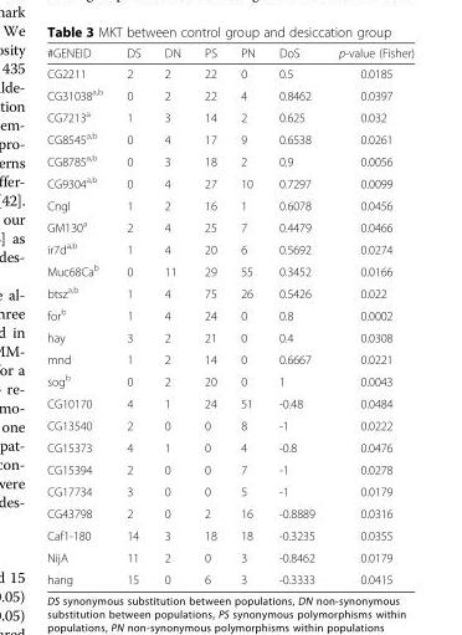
<table><thead><tr><td>#GENEID</td><td>DS</td><td>DN</td><td>PS</td><td>PN</td><td>DoS</td><td>p-value (Fisher)</td></tr></thead><tbody><tr><td>CG2211</td><td>2</td><td>2</td><td>22</td><td>0</td><td>0.5</td><td>0.0185</td></tr><tr><td>CG31038<sup>a,b</sup></td><td>0</td><td>2</td><td>22</td><td>4</td><td>0.8462</td><td>0.0397</td></tr><tr><td>CG7213<sup>a</sup></td><td>1</td><td>3</td><td>14</td><td>2</td><td>0.625</td><td>0.032</td></tr><tr><td>CG8545<sup>a,b</sup></td><td>0</td><td>4</td><td>17</td><td>9</td><td>0.6538</td><td>0.0261</td></tr><tr><td>CG8785<sup>a,b</sup></td><td>0</td><td>3</td><td>18</td><td>2</td><td>0.9</td><td>0.0056</td></tr><tr><td>CG9304<sup>a,b</sup></td><td>0</td><td>4</td><td>27</td><td>10</td><td>0.7297</td><td>0.0099</td></tr><tr><td>Cngl</td><td>1</td><td>2</td><td>16</td><td>1</td><td>0.6078</td><td>0.0456</td></tr><tr><td>GM130<sup>a</sup></td><td>2</td><td>4</td><td>25</td><td>7</td><td>0.4479</td><td>0.0466</td></tr><tr><td>ir7d<sup>a,b</sup></td><td>1</td><td>4</td><td>20</td><td>6</td><td>0.5692</td><td>0.0274</td></tr><tr><td>Muc68Ca<sup>b</sup></td><td>0</td><td>11</td><td>29</td><td>55</td><td>0.3452</td><td>0.0166</td></tr><tr><td>btsz<sup>a,b</sup></td><td>1</td><td>4</td><td>75</td><td>26</td><td>0.5426</td><td>0.022</td></tr><tr><td>for<sup>b</sup></td><td>1</td><td>4</td><td>24</td><td>0</td><td>0.8</td><td>0.0002</td></tr><tr><td>hay</td><td>3</td><td>2</td><td>21</td><td>0</td><td>0.4</td><td>0.0308</td></tr><tr><td>mnd</td><td>1</td><td>2</td><td>14</td><td>0</td><td>0.6667</td><td>0.0221</td></tr><tr><td>sog<sup>b</sup></td><td>0</td><td>2</td><td>20</td><td>0</td><td>1</td><td>0.0043</td></tr><tr><td>CG10170</td><td>4</td><td>1</td><td>24</td><td>51</td><td>-0.48</td><td>0.0484</td></tr><tr><td>CG13540</td><td>2</td><td>0</td><td>0</td><td>8</td><td>-1</td><td>0.0222</td></tr><tr><td>CG15373</td><td>4</td><td>1</td><td>0</td><td>4</td><td>-0.8</td><td>0.0476</td></tr><tr><td>CG15394</td><td>2</td><td>0</td><td>0</td><td>7</td><td>-1</td><td>0.0278</td></tr><tr><td>CG17734</td><td>3</td><td>0</td><td>0</td><td>5</td><td>-1</td><td>0.0179</td></tr><tr><td>CG43798</td><td>2</td><td>0</td><td>2</td><td>16</td><td>-0.8889</td><td>0.0316</td></tr><tr><td>Caf1-180</td><td>14</td><td>3</td><td>18</td><td>18</td><td>-0.3235</td><td>0.0355</td></tr><tr><td>NijA</td><td>11</td><td>2</td><td>0</td><td>3</td><td>-0.8462</td><td>0.0179</td></tr><tr><td>hang</td><td>15</td><td>0</td><td>6</td><td>3</td><td>-0.3333</td><td>0.0415</td></tr></tbody></table>